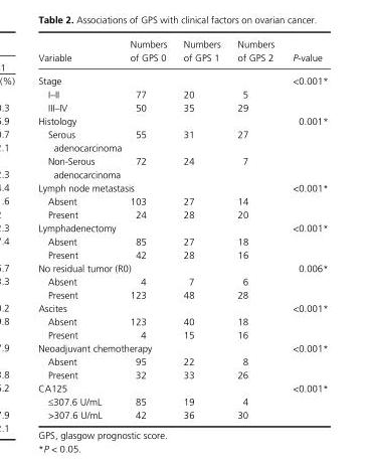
<table><thead><tr><td>Variable</td><td>Numbers of GPS 0</td><td>Numbers of GPS 1</td><td>Numbers of GPS 2</td><td>P- value</td></tr></thead><tbody><tr><td colspan="4">Stage</td><td>&lt;0.001*</td></tr><tr><td>I–II</td><td>77</td><td>20</td><td>5</td><td></td></tr><tr><td>III–IV</td><td>50</td><td>35</td><td>29</td><td></td></tr><tr><td colspan="4">Histology</td><td>0.001*</td></tr><tr><td>Serous adenocarcinoma</td><td>55</td><td>31</td><td>27</td><td></td></tr><tr><td>Non- Serous adenocarcinoma</td><td>72</td><td>24</td><td>7</td><td></td></tr><tr><td colspan="4">Lymph node metastasis</td><td>&lt;0.001*</td></tr><tr><td>Absent</td><td>103</td><td>27</td><td>14</td><td></td></tr><tr><td>Present</td><td>24</td><td>28</td><td>20</td><td></td></tr><tr><td colspan="4">Lymphadenectomy</td><td>&lt;0.001*</td></tr><tr><td>Absent</td><td>85</td><td>27</td><td>18</td><td></td></tr><tr><td>Present</td><td>42</td><td>28</td><td>16</td><td></td></tr><tr><td colspan="4">No residual tumor (R0)</td><td>0.006*</td></tr><tr><td>Absent</td><td>4</td><td>7</td><td>6</td><td></td></tr><tr><td>Present</td><td>123</td><td>48</td><td>28</td><td></td></tr><tr><td colspan="4">Ascites</td><td>&lt;0.001*</td></tr><tr><td>Absent</td><td>123</td><td>40</td><td>18</td><td></td></tr><tr><td>Present</td><td>4</td><td>15</td><td>16</td><td></td></tr><tr><td colspan="4">Neoadjuvant chemotherapy</td><td>&lt;0.001*</td></tr><tr><td>Absent</td><td>95</td><td>22</td><td>8</td><td></td></tr><tr><td>Present</td><td>32</td><td>33</td><td>26</td><td></td></tr><tr><td colspan="4">CA125</td><td>&lt;0.001*</td></tr><tr><td>≤307.6 U/mL</td><td>85</td><td>19</td><td>4</td><td></td></tr><tr><td>&gt;307.6 U/mL</td><td>42</td><td>36</td><td>30</td><td></td></tr></tbody></table>